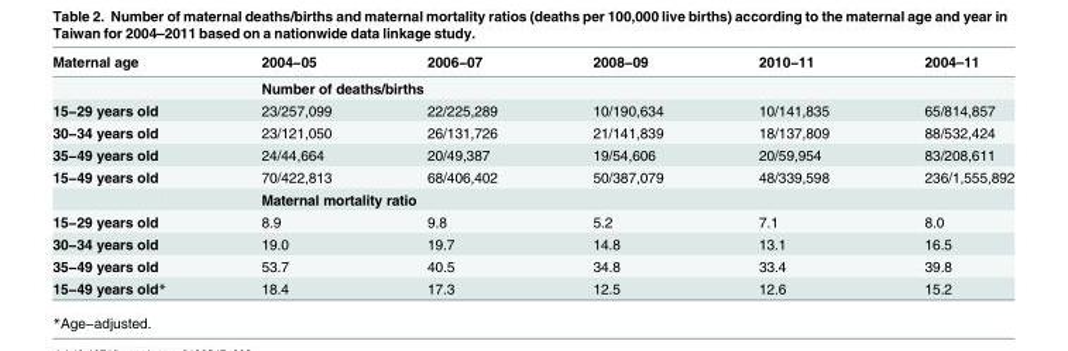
<table><thead><tr><td>Maternal age</td><td>2004−05</td><td>2006−07</td><td>2008−09</td><td>2010−11</td><td>2004–11</td></tr></thead><tbody><tr><td></td><td colspan="5">Number of deaths/births</td></tr><tr><td>15−29 years old</td><td>23/257,099</td><td>22/225,289</td><td>10/190,634</td><td>10/141,835</td><td>65/814,857</td></tr><tr><td>30−34 years old</td><td>23/121,050</td><td>26/131,726</td><td>21/141,839</td><td>18/137,809</td><td>88/532,424</td></tr><tr><td>35−49 years old</td><td>24/44,664</td><td>20/49,387</td><td>19/54,606</td><td>20/59,954</td><td>83/208,611</td></tr><tr><td rowspan="2">15−49 years old</td><td>70/422,813</td><td>68/406,402</td><td>50/387,079</td><td>48/339,598</td><td>236/1,555,892</td></tr><tr><td colspan="5">Maternal mortality ratio</td></tr><tr><td>15−29 years old</td><td>8.9</td><td>9.8</td><td>5.2</td><td>7.1</td><td>8.0</td></tr><tr><td>30−34 years old</td><td>19.0</td><td>19.7</td><td>14.8</td><td>13.1</td><td>16.5</td></tr><tr><td>35−49 years old</td><td>53.7</td><td>40.5</td><td>34.8</td><td>33.4</td><td>39.8</td></tr><tr><td>15−49 years old*</td><td>18.4</td><td>17.3</td><td>12.5</td><td>12.6</td><td>15.2</td></tr></tbody></table>